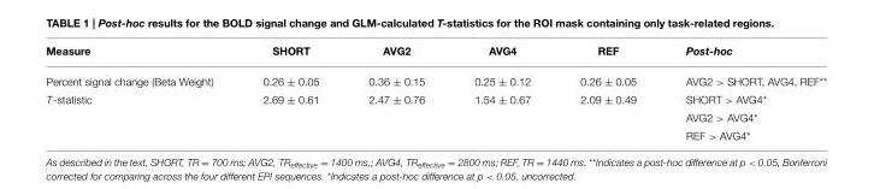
<table><thead><tr><td>Measure</td><td>SHORT</td><td>AVG2</td><td>AVG4</td><td>REF</td><td>Post-hoc</td></tr></thead><tbody><tr><td>Percent signal change (Beta Weight)</td><td>0.26 ± 0.05</td><td>0.36 ± 0.15</td><td>0.25 ± 0.12</td><td>0.26 ± 0.05</td><td>AVG2 &gt; SHORT, AVG4, REF**</td></tr><tr><td rowspan="3">T-statistic</td><td>2.69 ± 0.61</td><td>2.47 ± 0.76</td><td>1.54 ± 0.67</td><td>2.09 ± 0.49</td><td>SHORT &gt; AVG4*</td></tr><tr><td></td><td></td><td></td><td></td><td>AVG2 &gt; AVG4*</td></tr><tr><td></td><td></td><td></td><td></td><td>REF &gt; AVG4*</td></tr></tbody></table>